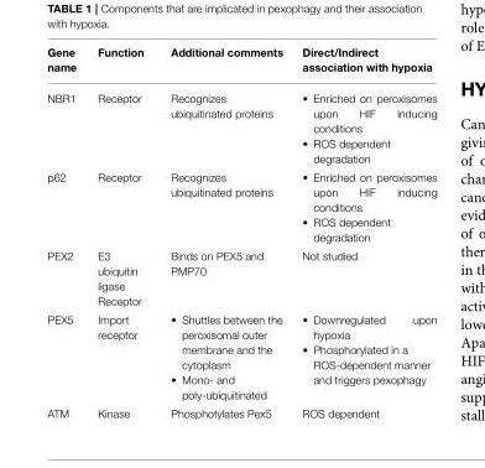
<table><thead><tr><td>Gene name</td><td>Function</td><td>Additional comments</td><td>Direct/Indirect association with hypoxia</td></tr></thead><tbody><tr><td>NBR1</td><td>Receptor</td><td>Recognizes ubiquitinated proteins</td><td>• Enriched on peroxisomes upon HIF inducing conditions • ROS dependent degradation</td></tr><tr><td>p62</td><td>Receptor</td><td>Recognizes ubiquitinated proteins</td><td>• Enriched on peroxisomes upon HIF inducing conditions • ROS dependent degradation</td></tr><tr><td>PEX2</td><td>E3 ubiquitin ligase Receptor</td><td>Binds on PEX5 and PMP70</td><td>Not studied</td></tr><tr><td>PEX5</td><td>Import receptor</td><td>• Shuttles between the peroxisomal outer membrane and the cytoplasm • Mono- and poly-ubiquitinated</td><td>• Downregulated upon hypoxia • Phosphorylated in a ROS-dependent manner and triggers pexophagy</td></tr><tr><td>ATM</td><td>Kinase</td><td>Phosphotylates Pex5</td><td>ROS dependent</td></tr></tbody></table>